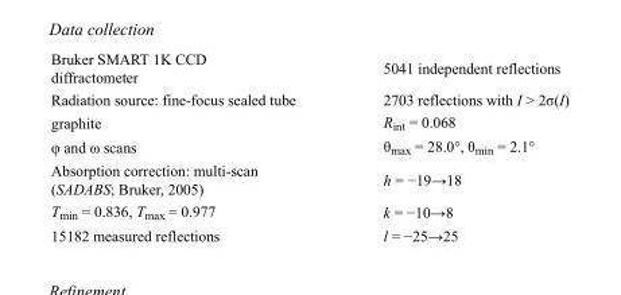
<table><tbody><tr><td>Bruker SMART 1K CCD diffractometer</td><td>5041 independent reflections</td></tr><tr><td>Radiation source: fine-focus sealed tube</td><td>2703 reflections with I &gt; 2σ(I)</td></tr><tr><td>graphite</td><td>R<sub>int</sub> = 0.068</td></tr><tr><td>φ and ω scans</td><td>θ<sub>max</sub> = 28.0°, θ<sub>min</sub> = 2.1°</td></tr><tr><td>Absorption correction: multi-scan (SADABS; Bruker, 2005)</td><td>h = −19→18</td></tr><tr><td>T<sub>min</sub> = 0.836, T<sub>max</sub> = 0.977</td><td>k = −10→8</td></tr><tr><td>15182 measured reflections</td><td>l = −25→25</td></tr></tbody></table>